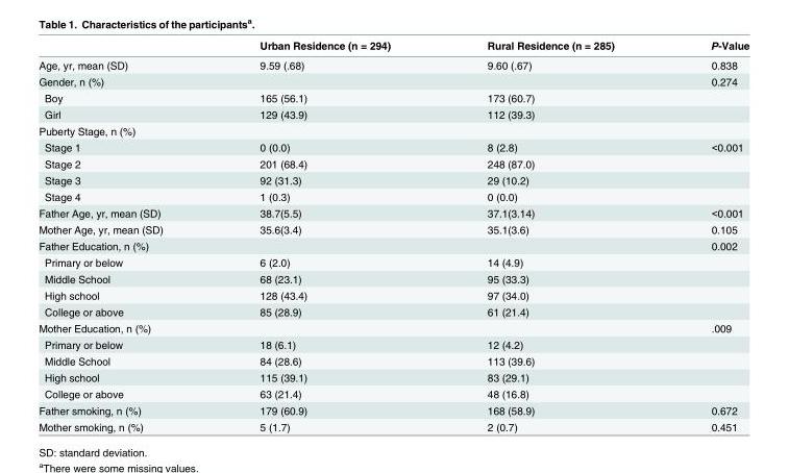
<table><thead><tr><td></td><td>Urban Residence (n = 294)</td><td>Rural Residence (n = 285)</td><td>P-Value</td></tr></thead><tbody><tr><td>Age, yr, mean (SD)</td><td>9.59 (.68)</td><td>9.60 (.67)</td><td>0.838</td></tr><tr><td>Gender, n (%)</td><td></td><td></td><td>0.274</td></tr><tr><td>Boy</td><td>165 (56.1)</td><td>173 (60.7)</td><td></td></tr><tr><td>Girl</td><td>129 (43.9)</td><td>112 (39.3)</td><td></td></tr><tr><td colspan="4">Puberty Stage, n (%)</td></tr><tr><td>Stage 1</td><td>0 (0.0)</td><td>8 (2.8)</td><td>&lt;0.001</td></tr><tr><td>Stage 2</td><td>201 (68.4)</td><td>248 (87.0)</td><td></td></tr><tr><td>Stage 3</td><td>92 (31.3)</td><td>29 (10.2)</td><td></td></tr><tr><td>Stage 4</td><td>1 (0.3)</td><td>0 (0.0)</td><td></td></tr><tr><td>Father Age, yr, mean (SD)</td><td>38.7(5.5)</td><td>37.1(3.14)</td><td>&lt;0.001</td></tr><tr><td>Mother Age, yr, mean (SD)</td><td>35.6(3.4)</td><td>35.1(3.6)</td><td>0.105</td></tr><tr><td>Father Education, n (%)</td><td></td><td></td><td>0.002</td></tr><tr><td>Primary or below</td><td>6 (2.0)</td><td>14 (4.9)</td><td></td></tr><tr><td>Middle School</td><td>68 (23.1)</td><td>95 (33.3)</td><td></td></tr><tr><td>High school</td><td>128 (43.4)</td><td>97 (34.0)</td><td></td></tr><tr><td>College or above</td><td>85 (28.9)</td><td>61 (21.4)</td><td></td></tr><tr><td>Mother Education, n (%)</td><td></td><td></td><td>.009</td></tr><tr><td>Primary or below</td><td>18 (6.1)</td><td>12 (4.2)</td><td></td></tr><tr><td>Middle School</td><td>84 (28.6)</td><td>113 (39.6)</td><td></td></tr><tr><td>High school</td><td>115 (39.1)</td><td>83 (29.1)</td><td></td></tr><tr><td>College or above</td><td>63 (21.4)</td><td>48 (16.8)</td><td></td></tr><tr><td>Father smoking, n (%)</td><td>179 (60.9)</td><td>168 (58.9)</td><td>0.672</td></tr><tr><td>Mother smoking, n (%)</td><td>5 (1.7)</td><td>2 (0.7)</td><td>0.451</td></tr></tbody></table>